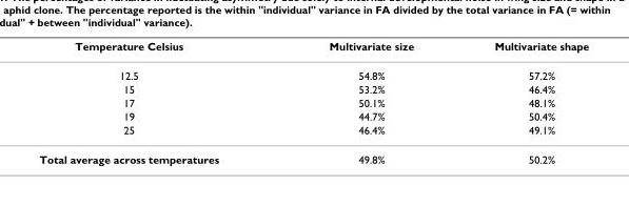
<table><thead><tr><td>Temperature Celsius</td><td>Multivariate size</td><td>Multivariate shape</td></tr></thead><tbody><tr><td>12.5</td><td>54.8%</td><td>57.2%</td></tr><tr><td>15</td><td>53.2%</td><td>46.4%</td></tr><tr><td>17</td><td>50.1%</td><td>48.1%</td></tr><tr><td>19</td><td>44.7%</td><td>50.4%</td></tr><tr><td>25</td><td>46.4%</td><td>49.1%</td></tr><tr><td>Total average across temperatures</td><td>49.8%</td><td>50.2%</td></tr></tbody></table>